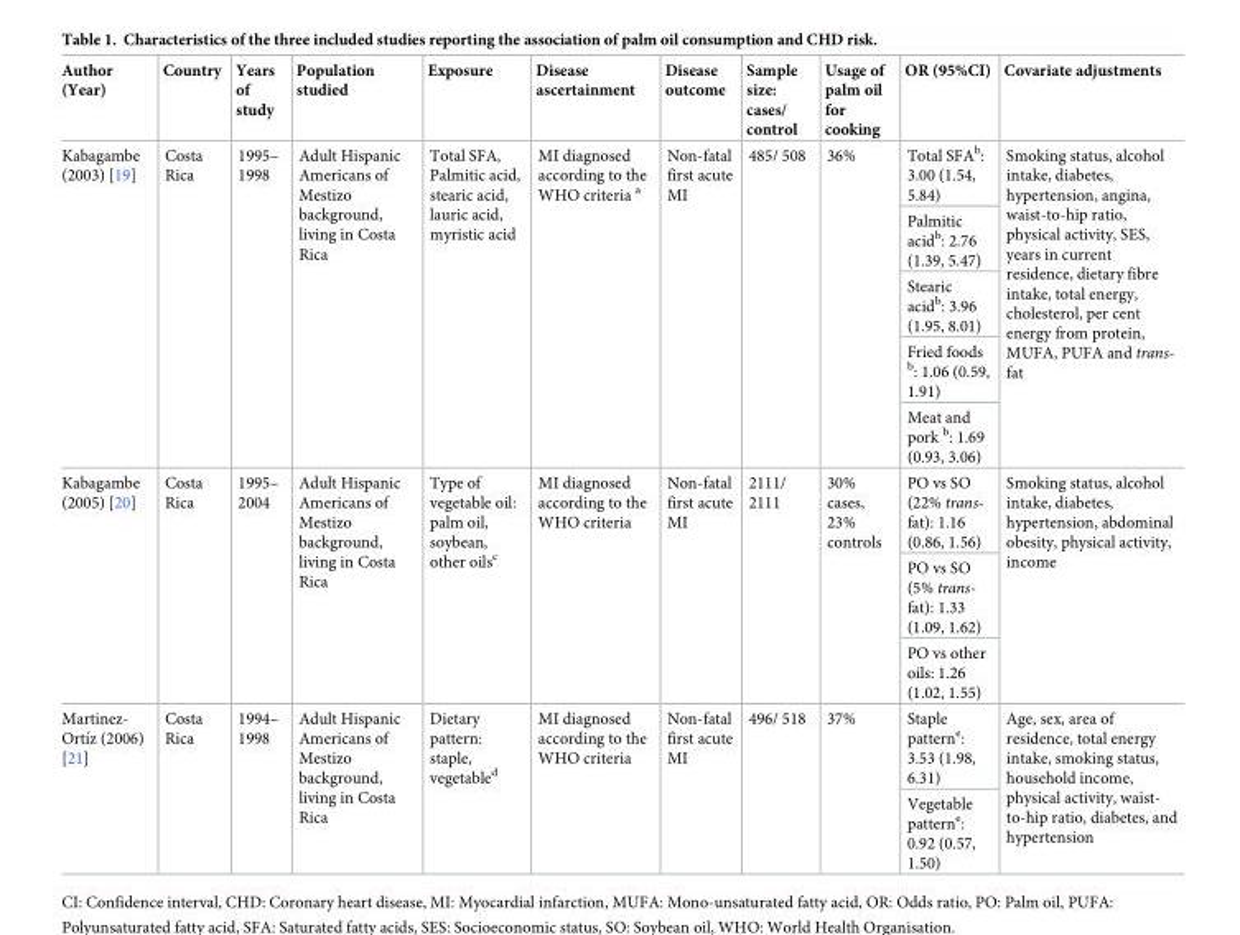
<table><thead><tr><td>Author (Year)</td><td>Country</td><td>Years of study</td><td>Population studied</td><td>Exposure</td><td>Disease ascertainment</td><td>Disease outcome</td><td>Sample size: cases/ control</td><td>Usage of palm oil for cooking</td><td>OR (95%CI)</td><td>Covariate adjustments</td></tr></thead><tbody><tr><td rowspan="5">Kabagambe (2003) [19]</td><td rowspan="5">Costa Rica</td><td rowspan="5">1995– 1998</td><td rowspan="5">Adult Hispanic Americans of Mestizo background, living in Costa Rica</td><td rowspan="5">Total SFA, Palmitic acid, stearic acid, lauric acid, myristic acid</td><td rowspan="5">MI diagnosed according to the WHO criteria <sup>a</sup></td><td rowspan="5">Non-fatal first acute MI</td><td rowspan="5">485/ 508</td><td rowspan="5">36%</td><td>Total SFA<sup>b</sup>: 3.00 (1.54, 5.84)</td><td rowspan="5">Smoking status, alcohol intake, diabetes, hypertension, angina, waist-to-hip ratio, physical activity, SES, years in current residence, dietary fibre intake, total energy, cholesterol, per cent energy from protein, MUFA, PUFA and trans- fat</td></tr><tr><td>Palmitic acid<sup>b</sup>: 2.76 (1.39, 5.47)</td></tr><tr><td>Stearic acid<sup>b</sup>: 3.96 (1.95, 8.01)</td></tr><tr><td>Fried foods <sup>b</sup>: 1.06 (0.59, 1.91)</td></tr><tr><td>Meat and pork <sup>b</sup>: 1.69 (0.93, 3.06)</td></tr><tr><td rowspan="3">Kabagambe (2005) [20]</td><td rowspan="3">Costa Rica</td><td rowspan="3">1995– 2004</td><td rowspan="3">Adult Hispanic Americans of Mestizo background, living in Costa Rica</td><td rowspan="3">Type of vegetable oil: palm oil, soybean, other oils<sup>c</sup></td><td rowspan="3">MI diagnosed according to the WHO criteria</td><td rowspan="3">Non-fatal first acute MI</td><td rowspan="3">2111/ 2111</td><td rowspan="3">30% cases, 23% controls</td><td>PO vs SO (22% trans- fat): 1.16 (0.86, 1.56)</td><td rowspan="3">Smoking status, alcohol intake, diabetes, hypertension, abdominal obesity, physical activity, income</td></tr><tr><td>PO vs SO (5% trans- fat): 1.33 (1.09, 1.62)</td></tr><tr><td>PO vs other oils: 1.26 (1.02, 1.55)</td></tr><tr><td rowspan="2">Martinez- Ortı´z (2006) [21]</td><td rowspan="2">Costa Rica</td><td rowspan="2">1994– 1998</td><td rowspan="2">Adult Hispanic Americans of Mestizo background, living in Costa Rica</td><td rowspan="2">Dietary pattern: staple, vegetable<sup>d</sup></td><td rowspan="2">MI diagnosed according to the WHO criteria</td><td rowspan="2">Non-fatal first acute MI</td><td rowspan="2">496/ 518</td><td rowspan="2">37%</td><td>Staple pattern<sup>e</sup>: 3.53 (1.98, 6.31)</td><td rowspan="2">Age, sex, area of residence, total energy intake, smoking status, household income, physical activity, waist- to-hip ratio, diabetes, and hypertension</td></tr><tr><td>Vegetable pattern<sup>e</sup>: 0.92 (0.57, 1.50)</td></tr></tbody></table>